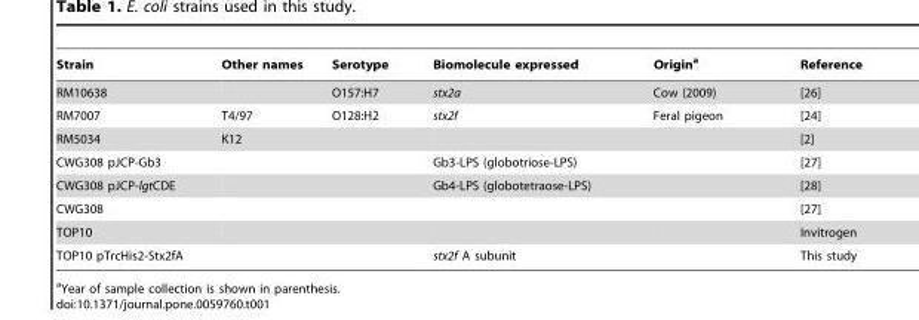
<table><thead><tr><td>Strain</td><td>Other names</td><td>Serotype</td><td>Biomolecule expressed</td><td>Origin<sup>a</sup></td><td>Reference</td></tr></thead><tbody><tr><td>RM10638</td><td></td><td>O157:H7</td><td>stx2a</td><td>Cow (2009)</td><td>[26]</td></tr><tr><td>RM7007</td><td>T4/97</td><td>O128:H2</td><td>stx2f</td><td>Feral pigeon</td><td>[24]</td></tr><tr><td>RM5034</td><td>K12</td><td></td><td></td><td></td><td>[2]</td></tr><tr><td>CWG308 pJCP-Gb3</td><td></td><td></td><td>Gb3-LPS (globotriose-LPS)</td><td></td><td>[27]</td></tr><tr><td>CWG308 pJCP-lgtCDE</td><td></td><td></td><td>Gb4-LPS (globotetraose-LPS)</td><td></td><td>[28]</td></tr><tr><td>CWG308</td><td></td><td></td><td></td><td></td><td>[27]</td></tr><tr><td>TOP10</td><td></td><td></td><td></td><td></td><td>Invitrogen</td></tr><tr><td>TOP10 pTrcHis2-Stx2fA</td><td></td><td></td><td>stx2f A subunit</td><td></td><td>This study</td></tr></tbody></table>